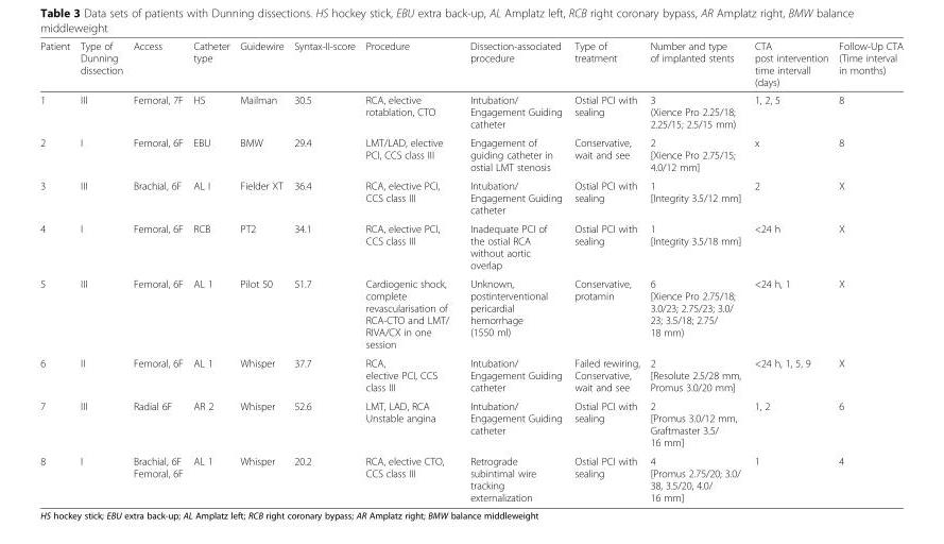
<table><thead><tr><td>Patient</td><td>Type of Dunning dissection</td><td>Access</td><td>Catheter type</td><td>Guidewire</td><td>Syntax-II-score</td><td>Procedure</td><td>Dissection-associated procedure</td><td>Type of treatment</td><td>Number and type of implanted stents</td><td>CTA post intervention time intervall (days)</td><td>Follow-Up CTA (Time interval in months)</td></tr></thead><tbody><tr><td>1</td><td>III</td><td>Femoral, 7F</td><td>HS</td><td>Mailman</td><td>30.5</td><td>RCA, elective rotablation, CTO</td><td>Intubation/ Engagement Guiding catheter</td><td>Ostial PCI with sealing</td><td>3 (Xience Pro 2.25/18; 2.25/15; 2.5/15 mm)</td><td>1, 2, 5</td><td>8</td></tr><tr><td>2</td><td>I</td><td>Femoral, 6F</td><td>EBU</td><td>BMW</td><td>29.4</td><td>LMT/LAD, elective PCI, CCS class III</td><td>Engagement of guiding catheter in ostial LMT stenosis</td><td>Conservative, wait and see</td><td>2 [Xience Pro 2.75/15; 4.0/12 mm]</td><td>x</td><td>8</td></tr><tr><td>3</td><td>III</td><td>Brachial, 6F</td><td>AL I</td><td>Fielder XT</td><td>36.4</td><td>RCA, elective PCI, CCS class III</td><td>Intubation/ Engagement Guiding catheter</td><td>Ostial PCI with sealing</td><td>1 [Integrity 3.5/12 mm]</td><td>2</td><td>X</td></tr><tr><td>4</td><td>I</td><td>Femoral, 6F</td><td>RCB</td><td>PT2</td><td>34.1</td><td>RCA, elective PCI, CCS class III</td><td>Inadequate PCI of the ostial RCA without aortic overlap</td><td>Ostial PCI with sealing</td><td>1 [Integrity 3.5/18 mm]</td><td>&lt;24 h</td><td>X</td></tr><tr><td>5</td><td>III</td><td>Femoral, 6F</td><td>AL 1</td><td>Pilot 50</td><td>51.7</td><td>Cardiogenic shock, complete revascularisation of RCA-CTO and LMT/ RIVA/CX in one session</td><td>Unknown, postinterventional pericardial hemorrhage (1550 ml)</td><td>Conservative, protamin</td><td>6 [Xience Pro 2.75/18; 3.0/23; 2.75/23; 3.0/ 23; 3.5/18; 2.75/ 18 mm)</td><td>&lt;24 h, 1</td><td>X</td></tr><tr><td>6</td><td>II</td><td>Femoral, 6F</td><td>AL 1</td><td>Whisper</td><td>37.7</td><td>RCA, elective PCI, CCS class III</td><td>Intubation/ Engagement Guiding catheter</td><td>Failed rewiring, Conservative, wait and see</td><td>2 [Resolute 2.5/28 mm, Promus 3.0/20 mm]</td><td>&lt;24 h, 1, 5, 9</td><td>X</td></tr><tr><td>7</td><td>III</td><td>Radial 6F</td><td>AR 2</td><td>Whisper</td><td>52.6</td><td>LMT, LAD, RCA Unstable angina</td><td>Intubation/ Engagement Guiding catheter</td><td>Ostial PCI with sealing</td><td>2 [Promus 3.0/12 mm, Graftmaster 3.5/ 16 mm]</td><td>1, 2</td><td>6</td></tr><tr><td>8</td><td>I</td><td>Brachial, 6F Femoral, 6F</td><td>AL 1</td><td>Whisper</td><td>20.2</td><td>RCA, elective CTO, CCS class III</td><td>Retrograde subintimal wire tracking externalization</td><td>Ostial PCI with sealing</td><td>4 [Promus 2.75/20; 3.0/ 38, 3.5/20, 4.0/ 16 mm]</td><td>1</td><td>4</td></tr></tbody></table>